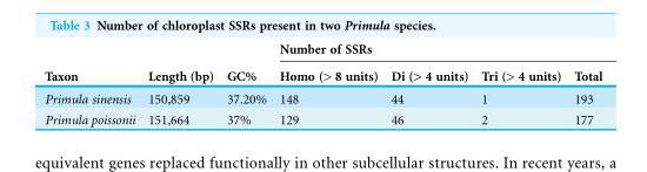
<table><thead><tr><td rowspan="2">Taxon</td><td rowspan="2">Length (bp)</td><td rowspan="2">GC%</td><td colspan="4">Number of SSRs</td></tr><tr><td>Homo (&gt; 8 units)</td><td>Di (&gt; 4 units)</td><td>Tri (&gt; 4 units)</td><td>Total</td></tr></thead><tbody><tr><td>Primula sinensis</td><td>150,859</td><td>37.20%</td><td>148</td><td>44</td><td>1</td><td>193</td></tr><tr><td>Primula poissonii</td><td>151,664</td><td>37%</td><td>129</td><td>46</td><td>2</td><td>177</td></tr></tbody></table>